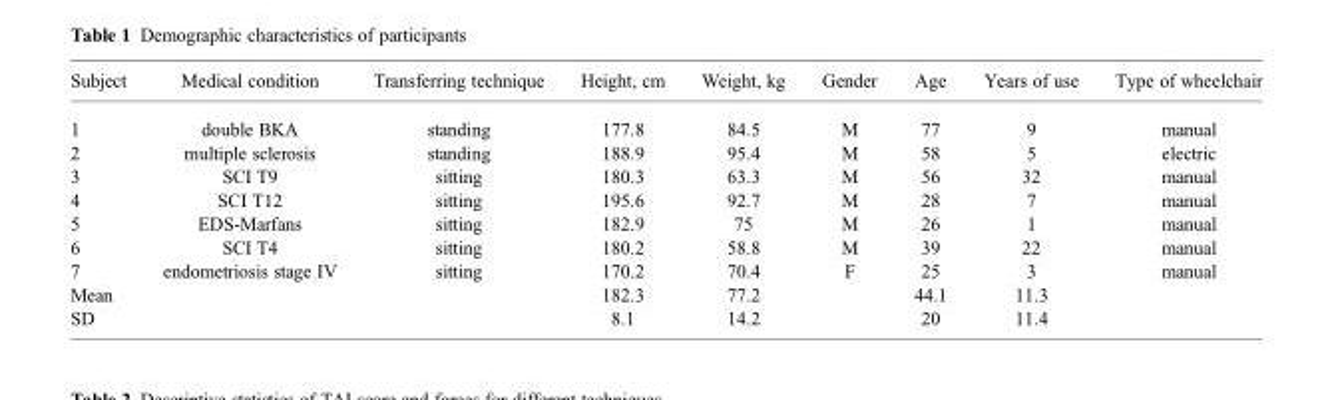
<table><thead><tr><td>Subject</td><td>Medical condition</td><td>Transferring technique</td><td>Height, cm</td><td>Weight, kg</td><td>Gender</td><td>Age</td><td>Years of use</td><td>Type of wheelchair</td></tr></thead><tbody><tr><td>1</td><td>double BKA</td><td>standing</td><td>177.8</td><td>84.5</td><td>M</td><td>77</td><td>9</td><td>manual</td></tr><tr><td>2</td><td>multiple sclerosis</td><td>standing</td><td>188.9</td><td>95.4</td><td>M</td><td>58</td><td>5</td><td>electric</td></tr><tr><td>3</td><td>SCI T9</td><td>sitting</td><td>180.3</td><td>63.3</td><td>M</td><td>56</td><td>32</td><td>manual</td></tr><tr><td>4</td><td>SCI T12</td><td>sitting</td><td>195.6</td><td>92.7</td><td>M</td><td>28</td><td>7</td><td>manual</td></tr><tr><td>5</td><td>EDS-Marfans</td><td>sitting</td><td>182.9</td><td>75</td><td>M</td><td>26</td><td>1</td><td>manual</td></tr><tr><td>6</td><td>SCI T4</td><td>sitting</td><td>180.2</td><td>58.8</td><td>M</td><td>39</td><td>22</td><td>manual</td></tr><tr><td>7</td><td>endometriosis stage IV</td><td>sitting</td><td>170.2</td><td>70.4</td><td>F</td><td>25</td><td>3</td><td>manual</td></tr><tr><td>Mean</td><td></td><td></td><td>182.3</td><td>77.2</td><td></td><td>44.1</td><td>11.3</td><td></td></tr><tr><td>SD</td><td></td><td></td><td>8.1</td><td>14.2</td><td></td><td>20</td><td>11.4</td><td></td></tr></tbody></table>